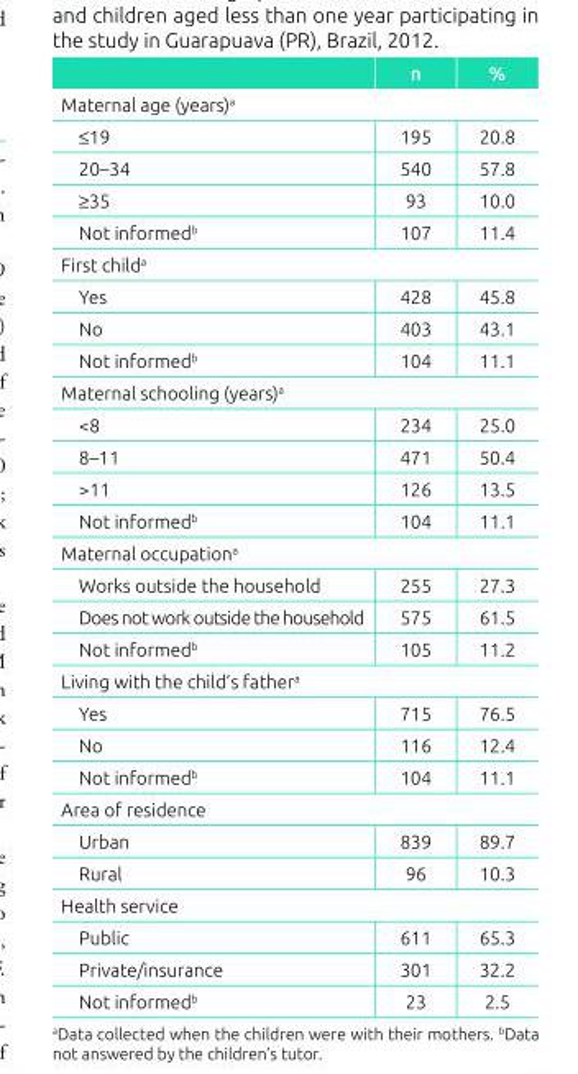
<table><thead><tr><td></td><td>n</td><td>%</td></tr></thead><tbody><tr><td colspan="3">Maternal age (years)<sup>a</sup></td></tr><tr><td>≤19</td><td>195</td><td>20.8</td></tr><tr><td>20–34</td><td>540</td><td>57.8</td></tr><tr><td>≥35</td><td>93</td><td>10.0</td></tr><tr><td>Not informed<sup>b</sup></td><td>107</td><td>11.4</td></tr><tr><td colspan="3">First child<sup>a</sup></td></tr><tr><td>Yes</td><td>428</td><td>45.8</td></tr><tr><td>No</td><td>403</td><td>43.1</td></tr><tr><td>Not informed<sup>b</sup></td><td>104</td><td>11.1</td></tr><tr><td colspan="3">Maternal schooling (years)<sup>a</sup></td></tr><tr><td>&lt;8</td><td>234</td><td>25.0</td></tr><tr><td>8–11</td><td>471</td><td>50.4</td></tr><tr><td>&gt;11</td><td>126</td><td>13.5</td></tr><tr><td>Not informed<sup>b</sup></td><td>104</td><td>11.1</td></tr><tr><td colspan="3">Maternal occupation<sup>a</sup></td></tr><tr><td>Works outside the household</td><td>255</td><td>27.3</td></tr><tr><td>Does not work outside the household</td><td>575</td><td>61.5</td></tr><tr><td>Not informed<sup>b</sup></td><td>105</td><td>11.2</td></tr><tr><td colspan="3">Living with the child’s father<sup>a</sup></td></tr><tr><td>Yes</td><td>715</td><td>76.5</td></tr><tr><td>No</td><td>116</td><td>12.4</td></tr><tr><td>Not informed<sup>b</sup></td><td>104</td><td>11.1</td></tr><tr><td colspan="3">Area of residence</td></tr><tr><td>Urban</td><td>839</td><td>89.7</td></tr><tr><td>Rural</td><td>96</td><td>10.3</td></tr><tr><td colspan="3">Health service</td></tr><tr><td>Public</td><td>611</td><td>65.3</td></tr><tr><td>Private/insurance</td><td>301</td><td>32.2</td></tr><tr><td>Not informed<sup>b</sup></td><td>23</td><td>2.5</td></tr></tbody></table>